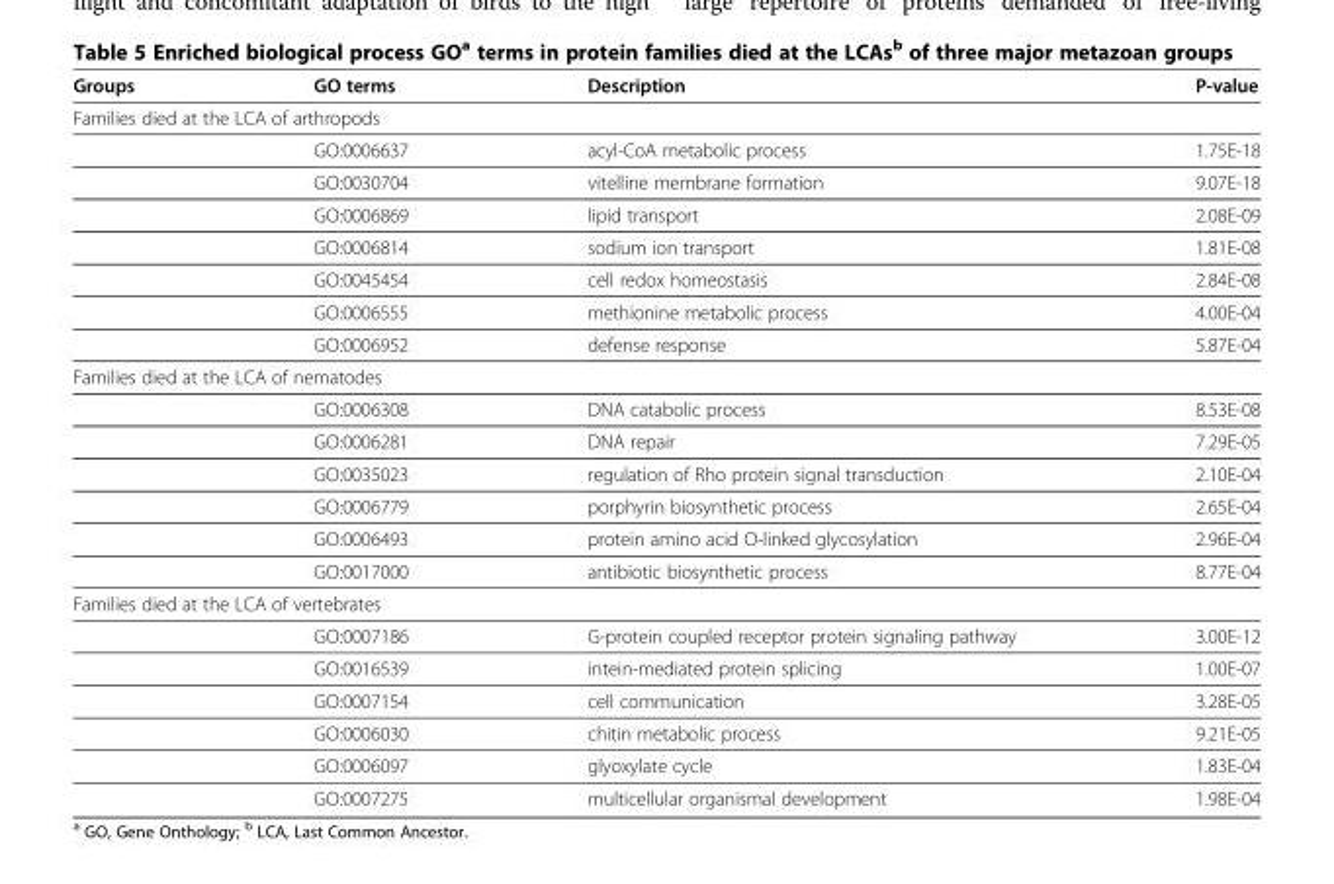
<table><thead><tr><td>Groups</td><td>GO terms</td><td>Description</td><td>P-value</td></tr></thead><tbody><tr><td colspan="4">Families died at the LCA of arthropods</td></tr><tr><td></td><td>GO:0006637</td><td>acyl-CoA metabolic process</td><td>1.75E-18</td></tr><tr><td></td><td>GO:0030704</td><td>vitelline membrane formation</td><td>9.07E-18</td></tr><tr><td></td><td>GO:0006869</td><td>lipid transport</td><td>2.08E-09</td></tr><tr><td></td><td>GO:0006814</td><td>sodium ion transport</td><td>1.81E-08</td></tr><tr><td></td><td>GO:0045454</td><td>cell redox homeostasis</td><td>2.84E-08</td></tr><tr><td></td><td>GO:0006555</td><td>methionine metabolic process</td><td>4.00E-04</td></tr><tr><td></td><td>GO:0006952</td><td>defense response</td><td>5.87E-04</td></tr><tr><td colspan="4">Families died at the LCA of nematodes</td></tr><tr><td></td><td>GO:0006308</td><td>DNA catabolic process</td><td>8.53E-08</td></tr><tr><td></td><td>GO:0006281</td><td>DNA repair</td><td>7.29E-05</td></tr><tr><td></td><td>GO:0035023</td><td>regulation of Rho protein signal transduction</td><td>2.10E-04</td></tr><tr><td></td><td>GO:0006779</td><td>porphyrin biosynthetic process</td><td>2.65E-04</td></tr><tr><td></td><td>GO:0006493</td><td>protein amino acid O-linked glycosylation</td><td>2.96E-04</td></tr><tr><td></td><td>GO:0017000</td><td>antibiotic biosynthetic process</td><td>8.77E-04</td></tr><tr><td colspan="4">Families died at the LCA of vertebrates</td></tr><tr><td></td><td>GO:0007186</td><td>G-protein coupled receptor protein signaling pathway</td><td>3.00E-12</td></tr><tr><td></td><td>GO:0016539</td><td>intein-mediated protein splicing</td><td>1.00E-07</td></tr><tr><td></td><td>GO:0007154</td><td>cell communication</td><td>3.28E-05</td></tr><tr><td></td><td>GO:0006030</td><td>chitin metabolic process</td><td>9.21E-05</td></tr><tr><td></td><td>GO:0006097</td><td>glyoxylate cycle</td><td>1.83E-04</td></tr><tr><td></td><td>GO:0007275</td><td>multicellular organismal development</td><td>1.98E-04</td></tr></tbody></table>